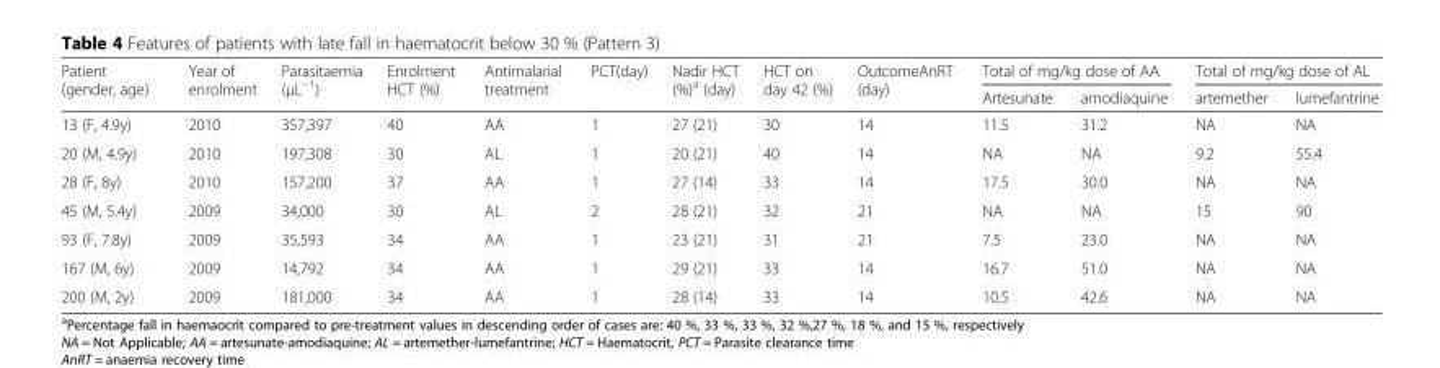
<table><thead><tr><td rowspan="2">Patient (gender, age)</td><td rowspan="2">Year of enrolment</td><td rowspan="2">Parasitaemia (μL<sup>−1</sup>)</td><td rowspan="2">Enrolment HCT (%)</td><td rowspan="2">Antimalarial treatment</td><td rowspan="2">PCT(day)</td><td rowspan="2">Nadir HCT (%)<sup>a</sup> (day)</td><td rowspan="2">HCT on day 42 (%)</td><td rowspan="2">OutcomeAnRT (day)</td><td colspan="2">Total of mg/kg dose of AA</td><td colspan="2">Total of mg/kg dose of AL</td></tr><tr><td>Artesunate</td><td>amodiaquine</td><td>artemether</td><td>lumefantrine</td></tr></thead><tbody><tr><td>13 (F, 4.9y)</td><td>2010</td><td>357,397</td><td>40</td><td>AA</td><td>1</td><td>27 (21)</td><td>30</td><td>14</td><td>11.5</td><td>31.2</td><td>NA</td><td>NA</td></tr><tr><td>20 (M, 4.9y)</td><td>2010</td><td>197,308</td><td>30</td><td>AL</td><td>1</td><td>20 (21)</td><td>40</td><td>14</td><td>NA</td><td>NA</td><td>9.2</td><td>55.4</td></tr><tr><td>28 (F, 8y)</td><td>2010</td><td>157,200</td><td>37</td><td>AA</td><td>1</td><td>27 (14)</td><td>33</td><td>14</td><td>17.5</td><td>30.0</td><td>NA</td><td>NA</td></tr><tr><td>45 (M, 5.4y)</td><td>2009</td><td>34,000</td><td>30</td><td>AL</td><td>2</td><td>28 (21)</td><td>32</td><td>21</td><td>NA</td><td>NA</td><td>15</td><td>90</td></tr><tr><td>93 (F, 7.8y)</td><td>2009</td><td>35,593</td><td>34</td><td>AA</td><td>1</td><td>23 (21)</td><td>31</td><td>21</td><td>7.5</td><td>23.0</td><td>NA</td><td>NA</td></tr><tr><td>167 (M, 6y)</td><td>2009</td><td>14,792</td><td>34</td><td>AA</td><td>1</td><td>29 (21)</td><td>33</td><td>14</td><td>16.7</td><td>51.0</td><td>NA</td><td>NA</td></tr><tr><td>200 (M, 2y)</td><td>2009</td><td>181,000</td><td>34</td><td>AA</td><td>1</td><td>28 (14)</td><td>33</td><td>14</td><td>10.5</td><td>42.6</td><td>NA</td><td>NA</td></tr></tbody></table>